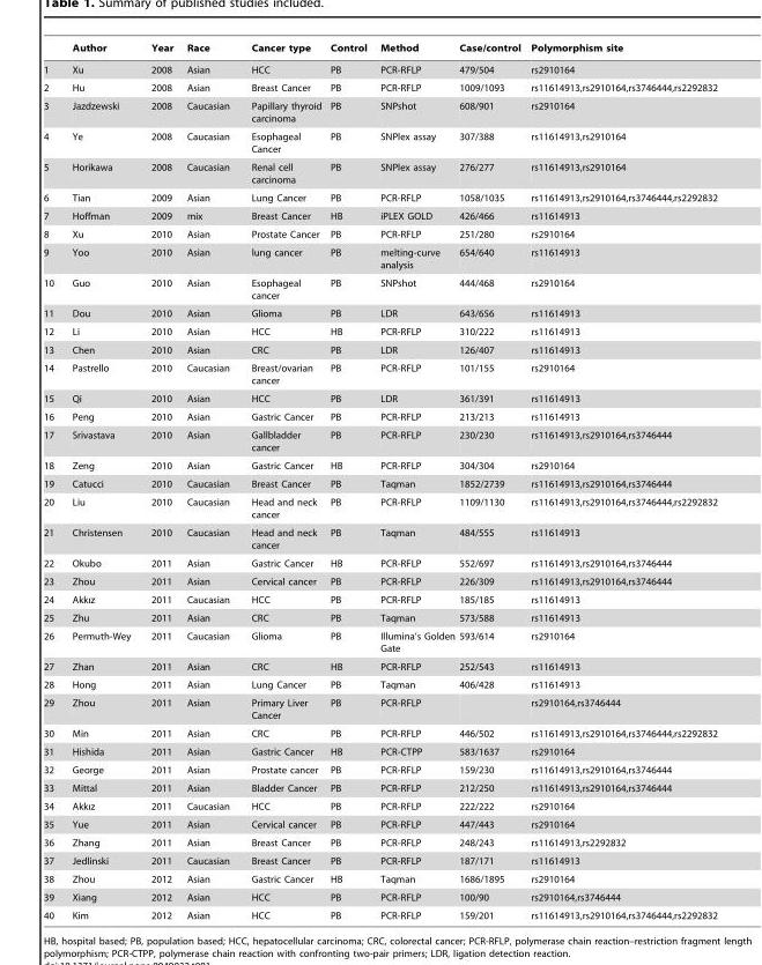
<table><thead><tr><td></td><td>Author</td><td>Year</td><td>Race</td><td>Cancer type</td><td>Control</td><td>Method</td><td>Case/control</td><td>Polymorphism site</td></tr></thead><tbody><tr><td>1</td><td>Xu</td><td>2008</td><td>Asian</td><td>HCC</td><td>PB</td><td>PCR-RFLP</td><td>479/504</td><td>rs2910164</td></tr><tr><td>2</td><td>Hu</td><td>2008</td><td>Asian</td><td>Breast Cancer</td><td>PB</td><td>PCR-RFLP</td><td>1009/1093</td><td>rs11614913,rs2910164,rs3746444,rs2292832</td></tr><tr><td>3</td><td>Jazdzewski</td><td>2008</td><td>Caucasian</td><td>Papillary thyroid carcinoma</td><td>PB</td><td>SNPshot</td><td>608/901</td><td>rs2910164</td></tr><tr><td>4</td><td>Ye</td><td>2008</td><td>Caucasian</td><td>Esophageal Cancer</td><td>PB</td><td>SNPlex assay</td><td>307/388</td><td>rs11614913,rs2910164</td></tr><tr><td>5</td><td>Horikawa</td><td>2008</td><td>Caucasian</td><td>Renal cell carcinoma</td><td>PB</td><td>SNPlex assay</td><td>276/277</td><td>rs11614913,rs2910164</td></tr><tr><td>6</td><td>Tian</td><td>2009</td><td>Asian</td><td>Lung Cancer</td><td>PB</td><td>PCR-RFLP</td><td>1058/1035</td><td>rs11614913,rs2910164,rs3746444,rs2292832</td></tr><tr><td>7</td><td>Hoffman</td><td>2009</td><td>mix</td><td>Breast Cancer</td><td>HB</td><td>iPLEX GOLD</td><td>426/466</td><td>rs11614913</td></tr><tr><td>8</td><td>Xu</td><td>2010</td><td>Asian</td><td>Prostate Cancer</td><td>PB</td><td>PCR-RFLP</td><td>251/280</td><td>rs2910164</td></tr><tr><td>9</td><td>Yoo</td><td>2010</td><td>Asian</td><td>lung cancer</td><td>PB</td><td>melting-curve analysis</td><td>654/640</td><td>rs11614913</td></tr><tr><td>10</td><td>Guo</td><td>2010</td><td>Asian</td><td>Esophageal cancer</td><td>PB</td><td>SNPshot</td><td>444/468</td><td>rs2910164</td></tr><tr><td>11</td><td>Dou</td><td>2010</td><td>Asian</td><td>Glioma</td><td>PB</td><td>LDR</td><td>643/656</td><td>rs11614913</td></tr><tr><td>12</td><td>Li</td><td>2010</td><td>Asian</td><td>HCC</td><td>HB</td><td>PCR-RFLP</td><td>310/222</td><td>rs11614913</td></tr><tr><td>13</td><td>Chen</td><td>2010</td><td>Asian</td><td>CRC</td><td>PB</td><td>LDR</td><td>126/407</td><td>rs11614913</td></tr><tr><td>14</td><td>Pastrello</td><td>2010</td><td>Caucasian</td><td>Breast/ovarian cancer</td><td>PB</td><td>PCR-RFLP</td><td>101/155</td><td>rs2910164</td></tr><tr><td>15</td><td>Qi</td><td>2010</td><td>Asian</td><td>HCC</td><td>PB</td><td>LDR</td><td>361/391</td><td>rs11614913</td></tr><tr><td>16</td><td>Peng</td><td>2010</td><td>Asian</td><td>Gastric Cancer</td><td>PB</td><td>PCR-RFLP</td><td>213/213</td><td>rs11614913</td></tr><tr><td>17</td><td>Srivastava</td><td>2010</td><td>Asian</td><td>Gallbladder cancer</td><td>PB</td><td>PCR-RFLP</td><td>230/230</td><td>rs11614913,rs2910164,rs3746444</td></tr><tr><td>18</td><td>Zeng</td><td>2010</td><td>Asian</td><td>Gastric Cancer</td><td>HB</td><td>PCR-RFLP</td><td>304/304</td><td>rs2910164</td></tr><tr><td>19</td><td>Catucci</td><td>2010</td><td>Caucasian</td><td>Breast Cancer</td><td>PB</td><td>Taqman</td><td>1852/2739</td><td>rs11614913,rs2910164,rs3746444</td></tr><tr><td>20</td><td>Liu</td><td>2010</td><td>Caucasian</td><td>Head and neck cancer</td><td>PB</td><td>PCR-RFLP</td><td>1109/1130</td><td>rs11614913,rs2910164,rs3746444,rs2292832</td></tr><tr><td>21</td><td>Christensen</td><td>2010</td><td>Caucasian</td><td>Head and neck cancer</td><td>PB</td><td>Taqman</td><td>484/555</td><td>rs11614913</td></tr><tr><td>22</td><td>Okubo</td><td>2011</td><td>Asian</td><td>Gastric Cancer</td><td>HB</td><td>PCR-RFLP</td><td>552/697</td><td>rs11614913,rs2910164,rs3746444</td></tr><tr><td>23</td><td>Zhou</td><td>2011</td><td>Asian</td><td>Cervical cancer</td><td>PB</td><td>PCR-RFLP</td><td>226/309</td><td>rs11614913,rs2910164,rs3746444</td></tr><tr><td>24</td><td>Akkız</td><td>2011</td><td>Caucasian</td><td>HCC</td><td>PB</td><td>PCR-RFLP</td><td>185/185</td><td>rs11614913</td></tr><tr><td>25</td><td>Zhu</td><td>2011</td><td>Asian</td><td>CRC</td><td>PB</td><td>Taqman</td><td>573/588</td><td>rs11614913</td></tr><tr><td>26</td><td>Permuth-Wey</td><td>2011</td><td>Caucasian</td><td>Glioma</td><td>PB</td><td>Illumina’s Golden Gate</td><td>593/614</td><td>rs2910164</td></tr><tr><td>27</td><td>Zhan</td><td>2011</td><td>Asian</td><td>CRC</td><td>HB</td><td>PCR-RFLP</td><td>252/543</td><td>rs11614913</td></tr><tr><td>28</td><td>Hong</td><td>2011</td><td>Asian</td><td>Lung Cancer</td><td>PB</td><td>Taqman</td><td>406/428</td><td>rs11614913</td></tr><tr><td>29</td><td>Zhou</td><td>2011</td><td>Asian</td><td>Primary Liver Cancer</td><td>PB</td><td>PCR-RFLP</td><td></td><td>rs2910164,rs3746444</td></tr><tr><td>30</td><td>Min</td><td>2011</td><td>Asian</td><td>CRC</td><td>PB</td><td>PCR-RFLP</td><td>446/502</td><td>rs11614913,rs2910164,rs3746444,rs2292832</td></tr><tr><td>31</td><td>Hishida</td><td>2011</td><td>Asian</td><td>Gastric Cancer</td><td>HB</td><td>PCR-CTPP</td><td>583/1637</td><td>rs2910164</td></tr><tr><td>32</td><td>George</td><td>2011</td><td>Asian</td><td>Prostate cancer</td><td>PB</td><td>PCR-RFLP</td><td>159/230</td><td>rs11614913,rs2910164,rs3746444</td></tr><tr><td>33</td><td>Mittal</td><td>2011</td><td>Asian</td><td>Bladder Cancer</td><td>PB</td><td>PCR-RFLP</td><td>212/250</td><td>rs11614913,rs2910164,rs3746444</td></tr><tr><td>34</td><td>Akkız</td><td>2011</td><td>Caucasian</td><td>HCC</td><td>PB</td><td>PCR-RFLP</td><td>222/222</td><td>rs2910164</td></tr><tr><td>35</td><td>Yue</td><td>2011</td><td>Asian</td><td>Cervical cancer</td><td>PB</td><td>PCR-RFLP</td><td>447/443</td><td>rs2910164</td></tr><tr><td>36</td><td>Zhang</td><td>2011</td><td>Asian</td><td>Breast Cancer</td><td>PB</td><td>PCR-RFLP</td><td>248/243</td><td>rs11614913,rs2292832</td></tr><tr><td>37</td><td>Jedlinski</td><td>2011</td><td>Caucasian</td><td>Breast Cancer</td><td>PB</td><td>PCR-RFLP</td><td>187/171</td><td>rs11614913</td></tr><tr><td>38</td><td>Zhou</td><td>2012</td><td>Asian</td><td>Gastric Cancer</td><td>HB</td><td>Taqman</td><td>1686/1895</td><td>rs2910164</td></tr><tr><td>39</td><td>Xiang</td><td>2012</td><td>Asian</td><td>HCC</td><td>PB</td><td>PCR-RFLP</td><td>100/90</td><td>rs2910164,rs3746444</td></tr><tr><td>40</td><td>Kim</td><td>2012</td><td>Asian</td><td>HCC</td><td>PB</td><td>PCR-RFLP</td><td>159/201</td><td>rs11614913,rs2910164,rs3746444,rs2292832</td></tr></tbody></table>